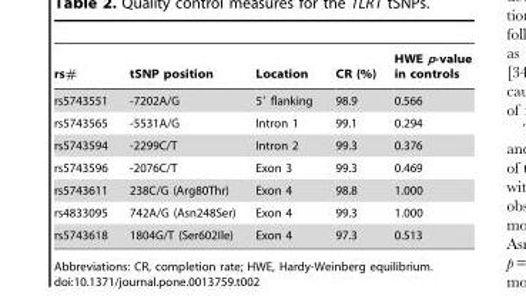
<table><thead><tr><td>rs#</td><td>tSNP position</td><td>Location</td><td>CR (%)</td><td>HWE p-value in controls</td></tr></thead><tbody><tr><td>rs5743551</td><td>-7202A/G</td><td>5′ flanking</td><td>98.9</td><td>0.566</td></tr><tr><td>rs5743565</td><td>-5531A/G</td><td>Intron 1</td><td>99.1</td><td>0.294</td></tr><tr><td>rs5743594</td><td>-2299C/T</td><td>Intron 2</td><td>99.3</td><td>0.376</td></tr><tr><td>rs5743596</td><td>-2076C/T</td><td>Exon 3</td><td>99.3</td><td>0.469</td></tr><tr><td>rs5743611</td><td>238C/G (Arg80Thr)</td><td>Exon 4</td><td>98.8</td><td>1.000</td></tr><tr><td>rs4833095</td><td>742A/G (Asn248Ser)</td><td>Exon 4</td><td>99.3</td><td>1.000</td></tr><tr><td>rs5743618</td><td>1804G/T (Ser602Ile)</td><td>Exon 4</td><td>97.3</td><td>0.513</td></tr></tbody></table>